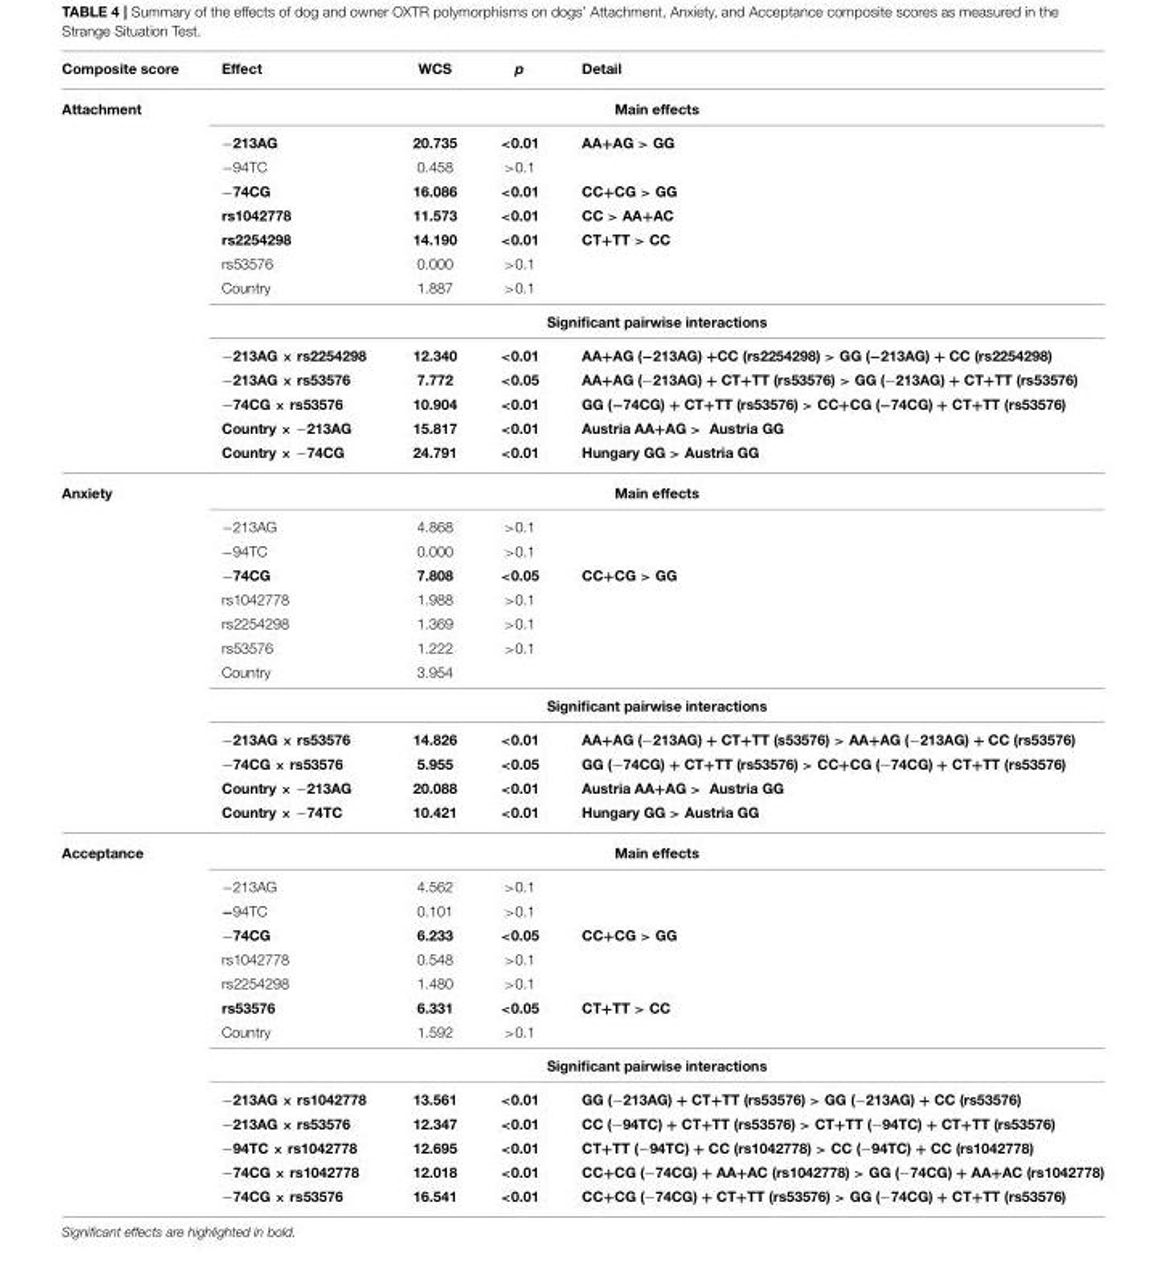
<table><thead><tr><td>Composite score</td><td>Effect</td><td>WCS</td><td>p</td><td>Detail</td></tr></thead><tbody><tr><td rowspan="14">Attachment</td><td colspan="4">Main effects</td></tr><tr><td>−213AG</td><td>20.735</td><td>&lt;0.01</td><td>AA+AG &gt; GG</td></tr><tr><td>−94TC</td><td>0.458</td><td>&gt;0.1</td><td></td></tr><tr><td>−74CG</td><td>16.086</td><td>&lt;0.01</td><td>CC+CG &gt; GG</td></tr><tr><td>rs1042778</td><td>11.573</td><td>&lt;0.01</td><td>CC &gt; AA+AC</td></tr><tr><td>rs2254298</td><td>14.190</td><td>&lt;0.01</td><td>CT+TT &gt; CC</td></tr><tr><td>rs53576</td><td>0.000</td><td>&gt;0.1</td><td></td></tr><tr><td>Country</td><td>1.887</td><td>&gt;0.1</td><td></td></tr><tr><td colspan="4">Significant pairwise interactions</td></tr><tr><td>−213AG × rs2254298</td><td>12.340</td><td>&lt;0.01</td><td>AA+AG (−213AG) +CC (rs2254298) &gt; GG (−213AG) + CC (rs2254298)</td></tr><tr><td>−213AG × rs53576</td><td>7.772</td><td>&lt;0.05</td><td>AA+AG (−213AG) + CT+TT (rs53576) &gt; GG (−213AG) + CT+TT (rs53576)</td></tr><tr><td>−74CG × rs53576</td><td>10.904</td><td>&lt;0.01</td><td>GG (−74CG) + CT+TT (rs53576) &gt; CC+CG (−74CG) + CT+TT (rs53576)</td></tr><tr><td>Country × −213AG</td><td>15.817</td><td>&lt;0.01</td><td>Austria AA+AG &gt; Austria GG</td></tr><tr><td>Country × −74CG</td><td>24.791</td><td>&lt;0.01</td><td>Hungary GG &gt; Austria GG</td></tr><tr><td rowspan="13">Anxiety</td><td colspan="4">Main effects</td></tr><tr><td>−213AG</td><td>4.868</td><td>&gt;0.1</td><td></td></tr><tr><td>−94TC</td><td>0.000</td><td>&gt;0.1</td><td></td></tr><tr><td>−74CG</td><td>7.808</td><td>&lt;0.05</td><td>CC+CG &gt; GG</td></tr><tr><td>rs1042778</td><td>1.988</td><td>&gt;0.1</td><td></td></tr><tr><td>rs2254298</td><td>1.369</td><td>&gt;0.1</td><td></td></tr><tr><td>rs53576</td><td>1.222</td><td>&gt;0.1</td><td></td></tr><tr><td>Country</td><td>3.954</td><td></td><td></td></tr><tr><td colspan="4">Significant pairwise interactions</td></tr><tr><td>−213AG × rs53576</td><td>14.826</td><td>&lt;0.01</td><td>AA+AG (−213AG) + CT+TT (s53576) &gt; AA+AG (−213AG) + CC (rs53576)</td></tr><tr><td>−74CG × rs53576</td><td>5.955</td><td>&lt;0.05</td><td>GG (−74CG) + CT+TT (rs53576) &gt; CC+CG (−74CG) + CT+TT (rs53576)</td></tr><tr><td>Country × −213AG</td><td>20.088</td><td>&lt;0.01</td><td>Austria AA+AG &gt; Austria GG</td></tr><tr><td>Country × −74TC</td><td>10.421</td><td>&lt;0.01</td><td>Hungary GG &gt; Austria GG</td></tr><tr><td rowspan="14">Acceptance</td><td colspan="4">Main effects</td></tr><tr><td>−213AG</td><td>4.562</td><td>&gt;0.1</td><td></td></tr><tr><td>−94TC</td><td>0.101</td><td>&gt;0.1</td><td></td></tr><tr><td>−74CG</td><td>6.233</td><td>&lt;0.05</td><td>CC+CG &gt; GG</td></tr><tr><td>rs1042778</td><td>0.548</td><td>&gt;0.1</td><td></td></tr><tr><td>rs2254298</td><td>1.480</td><td>&gt;0.1</td><td></td></tr><tr><td>rs53576</td><td>6.331</td><td>&lt;0.05</td><td>CT+TT &gt; CC</td></tr><tr><td>Country</td><td>1.592</td><td>&gt;0.1</td><td></td></tr><tr><td colspan="4">Significant pairwise interactions</td></tr><tr><td>−213AG × rs1042778</td><td>13.561</td><td>&lt;0.01</td><td>GG (−213AG) + CT+TT (rs53576) &gt; GG (−213AG) + CC (rs53576)</td></tr><tr><td>−213AG × rs53576</td><td>12.347</td><td>&lt;0.01</td><td>CC (−94TC) + CT+TT (rs53576) &gt; CT+TT (−94TC) + CT+TT (rs53576)</td></tr><tr><td>−94TC × rs1042778</td><td>12.695</td><td>&lt;0.01</td><td>CT+TT (−94TC) + CC (rs1042778) &gt; CC (−94TC) + CC (rs1042778)</td></tr><tr><td>−74CG × rs1042778</td><td>12.018</td><td>&lt;0.01</td><td>CC+CG (−74CG) + AA+AC (rs1042778) &gt; GG (−74CG) + AA+AC (rs1042778)</td></tr><tr><td>−74CG × rs53576</td><td>16.541</td><td>&lt;0.01</td><td>CC+CG (−74CG) + CT+TT (rs53576) &gt; GG (−74CG) + CT+TT (rs53576)</td></tr></tbody></table>